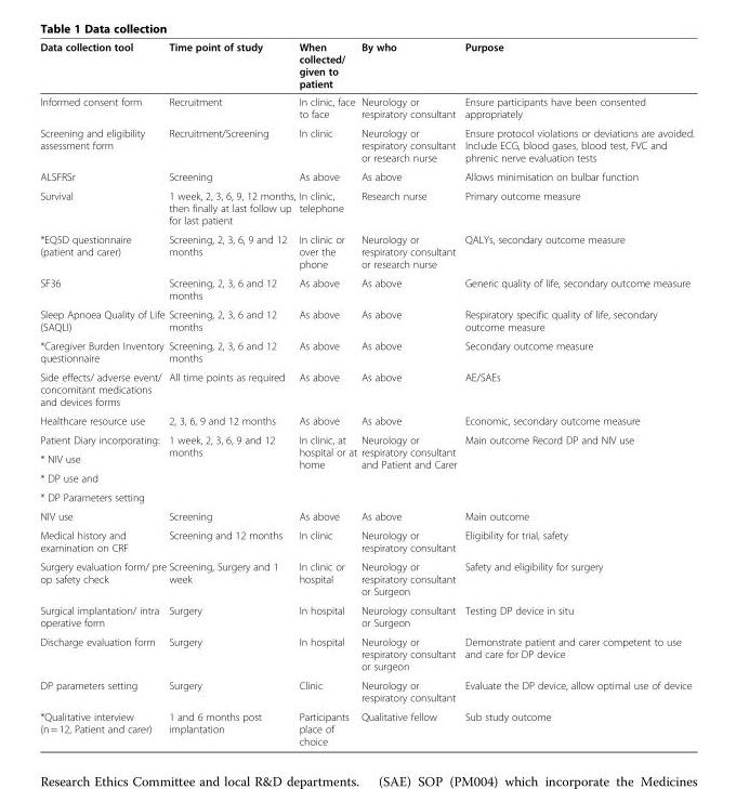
<table><thead><tr><td>Data collection tool</td><td>Time point of study</td><td>When collected/ given to patient</td><td>By who</td><td>Purpose</td></tr></thead><tbody><tr><td>Informed consent form</td><td>Recruitment</td><td>In clinic, face to face</td><td>Neurology or respiratory consultant</td><td>Ensure participants have been consented appropriately</td></tr><tr><td>Screening and eligibility assessment form</td><td>Recruitment/Screening</td><td>In clinic</td><td>Neurology or respiratory consultant or research nurse</td><td>Ensure protocol violations or deviations are avoided. Include ECG, blood gases, blood test, FVC and phrenic nerve evaluation tests</td></tr><tr><td>ALSFRSr</td><td>Screening</td><td>As above</td><td>As above</td><td>Allows minimisation on bulbar function</td></tr><tr><td>Survival</td><td>1 week, 2, 3, 6, 9, 12 months, then finally at last follow up for last patient</td><td>In clinic, telephone</td><td>Research nurse</td><td>Primary outcome measure</td></tr><tr><td>*EQ5D questionnaire (patient and carer)</td><td>Screening, 2, 3, 6, 9 and 12 months</td><td>In clinic or over the phone</td><td>Neurology or respiratory consultant or research nurse</td><td>QALYs, secondary outcome measure</td></tr><tr><td>SF36</td><td>Screening, 2, 3, 6 and 12 months</td><td>As above</td><td>As above</td><td>Generic quality of life, secondary outcome measure</td></tr><tr><td>Sleep Apnoea Quality of Life (SAQLI)</td><td>Screening, 2, 3, 6 and 12 months</td><td>As above</td><td>As above</td><td>Respiratory specific quality of life, secondary outcome measure</td></tr><tr><td>*Caregiver Burden Inventory questionnaire</td><td>Screening, 2, 3, 6 and 12 months</td><td>As above</td><td>As above</td><td>Secondary outcome measure</td></tr><tr><td>Side effects/ adverse event/ concomitant medications and devices forms</td><td>All time points as required</td><td>As above</td><td>As above</td><td>AE/SAEs</td></tr><tr><td>Healthcare resource use</td><td>2, 3, 6, 9 and 12 months</td><td>As above</td><td>As above</td><td>Economic, secondary outcome measure</td></tr><tr><td>Patient Diary incorporating:</td><td rowspan="4">1 week, 2, 3, 6, 9 and 12 months</td><td rowspan="4">In clinic, at hospital or at home</td><td rowspan="4">Neurology or respiratory consultant and Patient and Carer</td><td rowspan="4">Main outcome Record DP and NIV use</td></tr><tr><td>* NIV use</td></tr><tr><td>* DP use and</td></tr><tr><td>* DP Parameters setting</td></tr><tr><td>NIV use</td><td>Screening</td><td>As above</td><td>As above</td><td>Main outcome</td></tr><tr><td>Medical history and examination on CRF</td><td>Screening and 12 months</td><td>In clinic</td><td>Neurology or respiratory consultant</td><td>Eligibility for trial, safety</td></tr><tr><td>Surgery evaluation form/ pre op safety check</td><td>Screening, Surgery and 1 week</td><td>In clinic or hospital</td><td>Neurology or respiratory consultant or Surgeon</td><td>Safety and eligibility for surgery</td></tr><tr><td>Surgical implantation/ intra operative form</td><td>Surgery</td><td>In hospital</td><td>Neurology consultant or Surgeon</td><td>Testing DP device in situ</td></tr><tr><td>Discharge evaluation form</td><td>Surgery</td><td>In hospital</td><td>Neurology or respiratory consultant or surgeon</td><td>Demonstrate patient and carer competent to use and care for DP device</td></tr><tr><td>DP parameters setting</td><td>Surgery</td><td>Clinic</td><td>Neurology or respiratory consultant</td><td>Evaluate the DP device, allow optimal use of device</td></tr><tr><td>*Qualitative interview (n = 12, Patient and carer)</td><td>1 and 6 months post implantation</td><td>Participants place of choice</td><td>Qualitative fellow</td><td>Sub study outcome</td></tr></tbody></table>